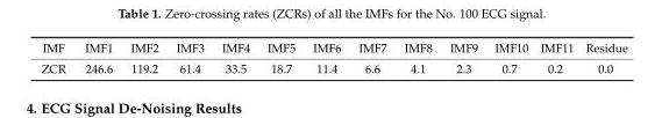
<table><tbody><tr><td>IMF</td><td>IMF1</td><td>IMF2</td><td>IMF3</td><td>IMF4</td><td>IMF5</td><td>IMF6</td><td>IMF7</td><td>IMF8</td><td>IMF9</td><td>IMF10</td><td>IMF11</td><td>Residue</td></tr><tr><td>ZCR</td><td>246.6</td><td>119.2</td><td>61.4</td><td>33.5</td><td>18.7</td><td>11.4</td><td>6.6</td><td>4.1</td><td>2.3</td><td>0.7</td><td>0.2</td><td>0.0</td></tr></tbody></table>